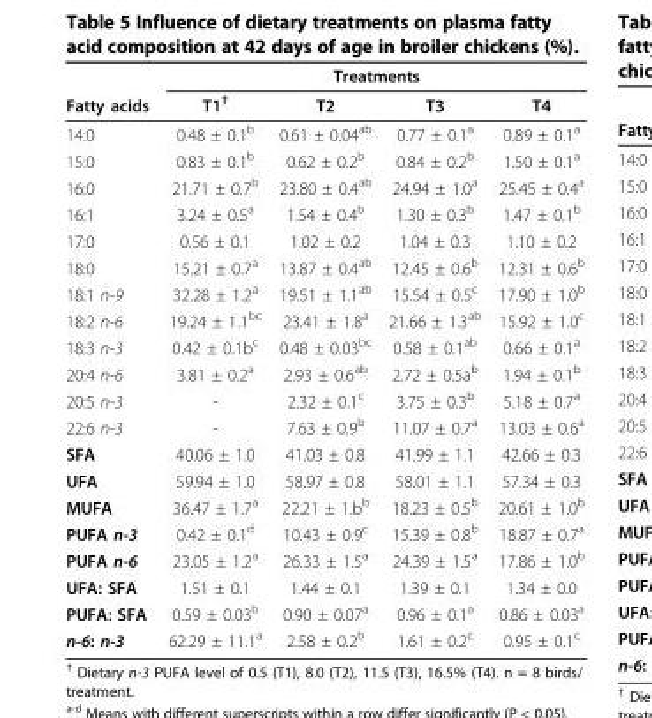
<table><thead><tr><td rowspan="2">Fatty acids</td><td colspan="4">Treatments</td></tr><tr><td>T1<sup>†</sup></td><td>T2</td><td>T3</td><td>T4</td></tr></thead><tbody><tr><td>14:0</td><td>0.48 ± 0.1<sup>b</sup></td><td>0.61 ± 0.04<sup>ab</sup></td><td>0.77 ± 0.1<sup>a</sup></td><td>0.89 ± 0.1<sup>a</sup></td></tr><tr><td>15:0</td><td>0.83 ± 0.1<sup>b</sup></td><td>0.62 ± 0.2<sup>b</sup></td><td>0.84 ± 0.2<sup>b</sup></td><td>1.50 ± 0.1<sup>a</sup></td></tr><tr><td>16:0</td><td>21.71 ± 0.7<sup>b</sup></td><td>23.80 ± 0.4<sup>ab</sup></td><td>24.94 ± 1.0<sup>a</sup></td><td>25.45 ± 0.4<sup>a</sup></td></tr><tr><td>16:1</td><td>3.24 ± 0.5<sup>a</sup></td><td>1.54 ± 0.4<sup>b</sup></td><td>1.30 ± 0.3<sup>b</sup></td><td>1.47 ± 0.1<sup>b</sup></td></tr><tr><td>17:0</td><td>0.56 ± 0.1</td><td>1.02 ± 0.2</td><td>1.04 ± 0.3</td><td>1.10 ± 0.2</td></tr><tr><td>18:0</td><td>15.21 ± 0.7<sup>a</sup></td><td>13.87 ± 0.4<sup>ab</sup></td><td>12.45 ± 0.6<sup>b</sup></td><td>12.31 ± 0.6<sup>b</sup></td></tr><tr><td>18:1 n-9</td><td>32.28 ± 1.2<sup>a</sup></td><td>19.51 ± 1.1<sup>ab</sup></td><td>15.54 ± 0.5<sup>c</sup></td><td>17.90 ± 1.0<sup>b</sup></td></tr><tr><td>18:2 n-6</td><td>19.24 ± 1.1<sup>bc</sup></td><td>23.41 ± 1.8<sup>a</sup></td><td>21.66 ± 1.3<sup>ab</sup></td><td>15.92 ± 1.0<sup>c</sup></td></tr><tr><td>18:3 n-3</td><td>0.42 ± 0.1b<sup>c</sup></td><td>0.48 ± 0.03<sup>bc</sup></td><td>0.58 ± 0.1<sup>ab</sup></td><td>0.66 ± 0.1<sup>a</sup></td></tr><tr><td>20:4 n-6</td><td>3.81 ± 0.2<sup>a</sup></td><td>2.93 ± 0.6<sup>ab</sup></td><td>2.72 ± 0.5a<sup>b</sup></td><td>1.94 ± 0.1<sup>b</sup></td></tr><tr><td>20:5 n-3</td><td>-</td><td>2.32 ± 0.1<sup>c</sup></td><td>3.75 ± 0.3<sup>b</sup></td><td>5.18 ± 0.7<sup>a</sup></td></tr><tr><td>22:6 n-3</td><td>-</td><td>7.63 ± 0.9<sup>b</sup></td><td>11.07 ± 0.7<sup>a</sup></td><td>13.03 ± 0.6<sup>a</sup></td></tr><tr><td>SFA</td><td>40.06 ± 1.0</td><td>41.03 ± 0.8</td><td>41.99 ± 1.1</td><td>42.66 ± 0.3</td></tr><tr><td>UFA</td><td>59.94 ± 1.0</td><td>58.97 ± 0.8</td><td>58.01 ± 1.1</td><td>57.34 ± 0.3</td></tr><tr><td>MUFA</td><td>36.47 ± 1.7<sup>a</sup></td><td>22.21 ± 1.b<sup>b</sup></td><td>18.23 ± 0.5<sup>b</sup></td><td>20.61 ± 1.0<sup>b</sup></td></tr><tr><td>PUFA n-3</td><td>0.42 ± 0.1<sup>d</sup></td><td>10.43 ± 0.9<sup>c</sup></td><td>15.39 ± 0.8<sup>b</sup></td><td>18.87 ± 0.7<sup>a</sup></td></tr><tr><td>PUFA n-6</td><td>23.05 ± 1.2<sup>a</sup></td><td>26.33 ± 1.5<sup>a</sup></td><td>24.39 ± 1.5<sup>a</sup></td><td>17.86 ± 1.0<sup>b</sup></td></tr><tr><td>UFA: SFA</td><td>1.51 ± 0.1</td><td>1.44 ± 0.1</td><td>1.39 ± 0.1</td><td>1.34 ± 0.0</td></tr><tr><td>PUFA: SFA</td><td>0.59 ± 0.03<sup>b</sup></td><td>0.90 ± 0.07<sup>a</sup></td><td>0.96 ± 0.1<sup>a</sup></td><td>0.86 ± 0.03<sup>a</sup></td></tr><tr><td>n-6: n-3</td><td>62.29 ± 11.1<sup>a</sup></td><td>2.58 ± 0.2<sup>b</sup></td><td>1.61 ± 0.2<sup>c</sup></td><td>0.95 ± 0.1<sup>c</sup></td></tr></tbody></table>